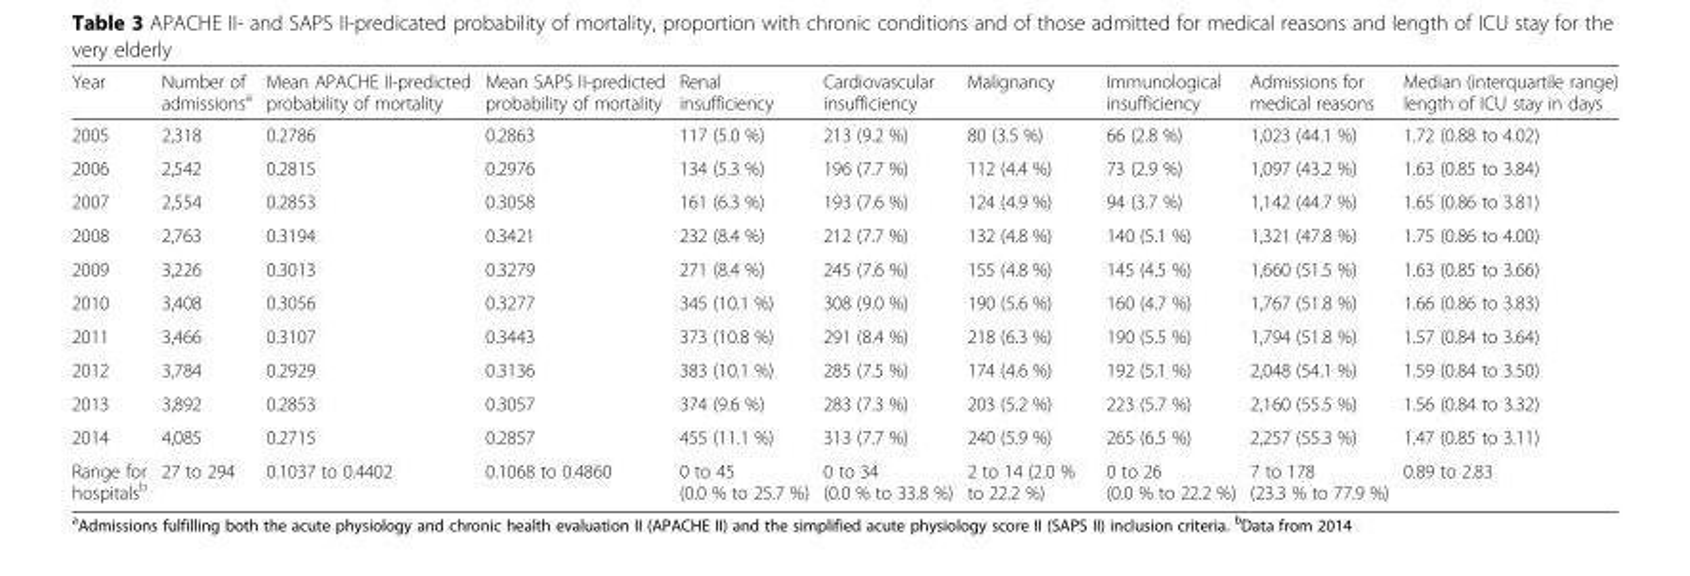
<table><thead><tr><td>Year</td><td>Number of admissions<sup>a</sup></td><td>Mean APACHE II-predicted probability of mortality</td><td>Mean SAPS II-predicted probability of mortality</td><td>Renal insufficiency</td><td>Cardiovascular insufficiency</td><td>Malignancy</td><td>Immunological insufficiency</td><td>Admissions for medical reasons</td><td>Median (interquartile range) length of ICU stay in days</td></tr></thead><tbody><tr><td>2005</td><td>2,318</td><td>0.2786</td><td>0.2863</td><td>117 (5.0 %)</td><td>213 (9.2 %)</td><td>80 (3.5 %)</td><td>66 (2.8 %)</td><td>1,023 (44.1 %)</td><td>1.72 (0.88 to 4.02)</td></tr><tr><td>2006</td><td>2,542</td><td>0.2815</td><td>0.2976</td><td>134 (5.3 %)</td><td>196 (7.7 %)</td><td>112 (4.4 %)</td><td>73 (2.9 %)</td><td>1,097 (43.2 %)</td><td>1.63 (0.85 to 3.84)</td></tr><tr><td>2007</td><td>2,554</td><td>0.2853</td><td>0.3058</td><td>161 (6.3 %)</td><td>193 (7.6 %)</td><td>124 (4.9 %)</td><td>94 (3.7 %)</td><td>1,142 (44.7 %)</td><td>1.65 (0.86 to 3.81)</td></tr><tr><td>2008</td><td>2,763</td><td>0.3194</td><td>0.3421</td><td>232 (8.4 %)</td><td>212 (7.7 %)</td><td>132 (4.8 %)</td><td>140 (5.1 %)</td><td>1,321 (47.8 %)</td><td>1.75 (0.86 to 4.00)</td></tr><tr><td>2009</td><td>3,226</td><td>0.3013</td><td>0.3279</td><td>271 (8.4 %)</td><td>245 (7.6 %)</td><td>155 (4.8 %)</td><td>145 (4.5 %)</td><td>1,660 (51.5 %)</td><td>1.63 (0.85 to 3.66)</td></tr><tr><td>2010</td><td>3,408</td><td>0.3056</td><td>0.3277</td><td>345 (10.1 %)</td><td>308 (9.0 %)</td><td>190 (5.6 %)</td><td>160 (4.7 %)</td><td>1,767 (51.8 %)</td><td>1.66 (0.86 to 3.83)</td></tr><tr><td>2011</td><td>3,466</td><td>0.3107</td><td>0.3443</td><td>373 (10.8 %)</td><td>291 (8.4 %)</td><td>218 (6.3 %)</td><td>190 (5.5 %)</td><td>1,794 (51.8 %)</td><td>1.57 (0.84 to 3.64)</td></tr><tr><td>2012</td><td>3,784</td><td>0.2929</td><td>0.3136</td><td>383 (10.1 %)</td><td>285 (7.5 %)</td><td>174 (4.6 %)</td><td>192 (5.1 %)</td><td>2,048 (54.1 %)</td><td>1.59 (0.84 to 3.50)</td></tr><tr><td>2013</td><td>3,892</td><td>0.2853</td><td>0.3057</td><td>374 (9.6 %)</td><td>283 (7.3 %)</td><td>203 (5.2 %)</td><td>223 (5.7 %)</td><td>2,160 (55.5 %)</td><td>1.56 (0.84 to 3.32)</td></tr><tr><td>2014</td><td>4,085</td><td>0.2715</td><td>0.2857</td><td>455 (11.1 %)</td><td>313 (7.7 %)</td><td>240 (5.9 %)</td><td>265 (6.5 %)</td><td>2,257 (55.3 %)</td><td>1.47 (0.85 to 3.11)</td></tr><tr><td>Range for hospitals<sup>b</sup></td><td>27 to 294</td><td>0.1037 to 0.4402</td><td>0.1068 to 0.4860</td><td>0 to 45 (0.0 % to 25.7 %)</td><td>0 to 34 (0.0 % to 33.8 %)</td><td>2 to 14 (2.0 % to 22.2 %)</td><td>0 to 26 (0.0 % to 22.2 %)</td><td>7 to 178 (23.3 % to 77.9 %)</td><td>0.89 to 2.83</td></tr></tbody></table>